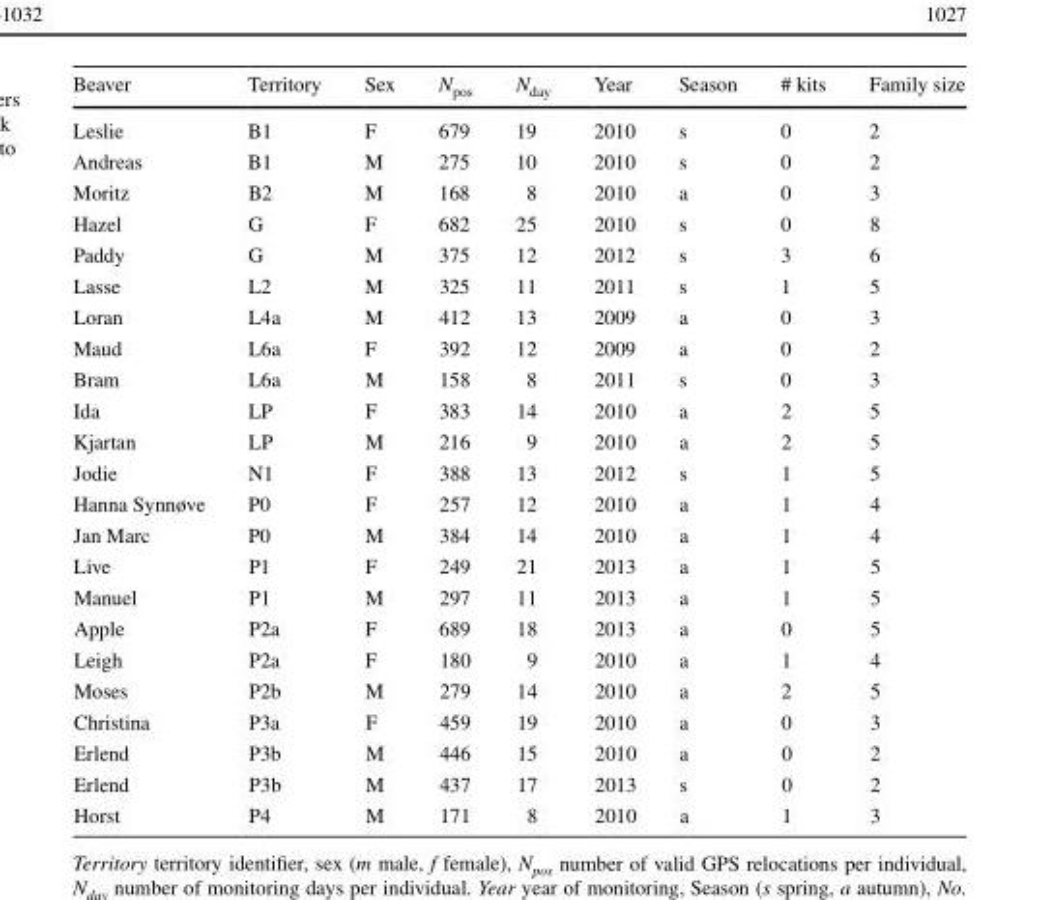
<table><thead><tr><td>Beaver</td><td>Territory</td><td>Sex</td><td>N<sub>pos</sub></td><td>N<sub>day</sub></td><td>Year</td><td>Season</td><td># kits</td><td>Family size</td></tr></thead><tbody><tr><td>Leslie</td><td>B1</td><td>F</td><td>679</td><td>19</td><td>2010</td><td>s</td><td>0</td><td>2</td></tr><tr><td>Andreas</td><td>B1</td><td>M</td><td>275</td><td>10</td><td>2010</td><td>s</td><td>0</td><td>2</td></tr><tr><td>Moritz</td><td>B2</td><td>M</td><td>168</td><td>8</td><td>2010</td><td>a</td><td>0</td><td>3</td></tr><tr><td>Hazel</td><td>G</td><td>F</td><td>682</td><td>25</td><td>2010</td><td>s</td><td>0</td><td>8</td></tr><tr><td>Paddy</td><td>G</td><td>M</td><td>375</td><td>12</td><td>2012</td><td>s</td><td>3</td><td>6</td></tr><tr><td>Lasse</td><td>L2</td><td>M</td><td>325</td><td>11</td><td>2011</td><td>s</td><td>1</td><td>5</td></tr><tr><td>Loran</td><td>L4a</td><td>M</td><td>412</td><td>13</td><td>2009</td><td>a</td><td>0</td><td>3</td></tr><tr><td>Maud</td><td>L6a</td><td>F</td><td>392</td><td>12</td><td>2009</td><td>a</td><td>0</td><td>2</td></tr><tr><td>Bram</td><td>L6a</td><td>M</td><td>158</td><td>8</td><td>2011</td><td>s</td><td>0</td><td>3</td></tr><tr><td>Ida</td><td>LP</td><td>F</td><td>383</td><td>14</td><td>2010</td><td>a</td><td>2</td><td>5</td></tr><tr><td>Kjartan</td><td>LP</td><td>M</td><td>216</td><td>9</td><td>2010</td><td>a</td><td>2</td><td>5</td></tr><tr><td>Jodie</td><td>N1</td><td>F</td><td>388</td><td>13</td><td>2012</td><td>s</td><td>1</td><td>5</td></tr><tr><td>Hanna Synnøve</td><td>P0</td><td>F</td><td>257</td><td>12</td><td>2010</td><td>a</td><td>1</td><td>4</td></tr><tr><td>Jan Marc</td><td>P0</td><td>M</td><td>384</td><td>14</td><td>2010</td><td>a</td><td>1</td><td>4</td></tr><tr><td>Live</td><td>P1</td><td>F</td><td>249</td><td>21</td><td>2013</td><td>a</td><td>1</td><td>5</td></tr><tr><td>Manuel</td><td>P1</td><td>M</td><td>297</td><td>11</td><td>2013</td><td>a</td><td>1</td><td>5</td></tr><tr><td>Apple</td><td>P2a</td><td>F</td><td>689</td><td>18</td><td>2013</td><td>a</td><td>0</td><td>5</td></tr><tr><td>Leigh</td><td>P2a</td><td>F</td><td>180</td><td>9</td><td>2010</td><td>a</td><td>1</td><td>4</td></tr><tr><td>Moses</td><td>P2b</td><td>M</td><td>279</td><td>14</td><td>2010</td><td>a</td><td>2</td><td>5</td></tr><tr><td>Christina</td><td>P3a</td><td>F</td><td>459</td><td>19</td><td>2010</td><td>a</td><td>0</td><td>3</td></tr><tr><td>Erlend</td><td>P3b</td><td>M</td><td>446</td><td>15</td><td>2010</td><td>a</td><td>0</td><td>2</td></tr><tr><td>Erlend</td><td>P3b</td><td>M</td><td>437</td><td>17</td><td>2013</td><td>s</td><td>0</td><td>2</td></tr><tr><td>Horst</td><td>P4</td><td>M</td><td>171</td><td>8</td><td>2010</td><td>a</td><td>1</td><td>3</td></tr></tbody></table>